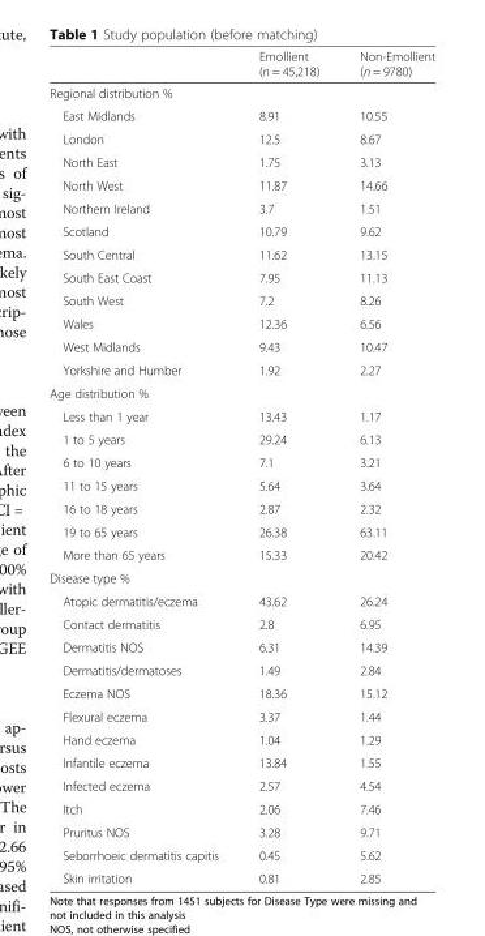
<table><thead><tr><td></td><td>Emollient (n = 45,218)</td><td>Non-Emollient (n = 9780)</td></tr></thead><tbody><tr><td colspan="3">Regional distribution %</td></tr><tr><td>East Midlands</td><td>8.91</td><td>10.55</td></tr><tr><td>London</td><td>12.5</td><td>8.67</td></tr><tr><td>North East</td><td>1.75</td><td>3.13</td></tr><tr><td>North West</td><td>11.87</td><td>14.66</td></tr><tr><td>Northern Ireland</td><td>3.7</td><td>1.51</td></tr><tr><td>Scotland</td><td>10.79</td><td>9.62</td></tr><tr><td>South Central</td><td>11.62</td><td>13.15</td></tr><tr><td>South East Coast</td><td>7.95</td><td>11.13</td></tr><tr><td>South West</td><td>7.2</td><td>8.26</td></tr><tr><td>Wales</td><td>12.36</td><td>6.56</td></tr><tr><td>West Midlands</td><td>9.43</td><td>10.47</td></tr><tr><td>Yorkshire and Humber</td><td>1.92</td><td>2.27</td></tr><tr><td colspan="3">Age distribution %</td></tr><tr><td>Less than 1 year</td><td>13.43</td><td>1.17</td></tr><tr><td>1 to 5 years</td><td>29.24</td><td>6.13</td></tr><tr><td>6 to 10 years</td><td>7.1</td><td>3.21</td></tr><tr><td>11 to 15 years</td><td>5.64</td><td>3.64</td></tr><tr><td>16 to 18 years</td><td>2.87</td><td>2.32</td></tr><tr><td>19 to 65 years</td><td>26.38</td><td>63.11</td></tr><tr><td>More than 65 years</td><td>15.33</td><td>20.42</td></tr><tr><td colspan="3">Disease type %</td></tr><tr><td>Atopic dermatitis/eczema</td><td>43.62</td><td>26.24</td></tr><tr><td>Contact dermatitis</td><td>2.8</td><td>6.95</td></tr><tr><td>Dermatitis NOS</td><td>6.31</td><td>14.39</td></tr><tr><td>Dermatitis/dermatoses</td><td>1.49</td><td>2.84</td></tr><tr><td>Eczema NOS</td><td>18.36</td><td>15.12</td></tr><tr><td>Flexural eczema</td><td>3.37</td><td>1.44</td></tr><tr><td>Hand eczema</td><td>1.04</td><td>1.29</td></tr><tr><td>Infantile eczema</td><td>13.84</td><td>1.55</td></tr><tr><td>Infected eczema</td><td>2.57</td><td>4.54</td></tr><tr><td>Itch</td><td>2.06</td><td>7.46</td></tr><tr><td>Pruritus NOS</td><td>3.28</td><td>9.71</td></tr><tr><td>Seborrhoeic dermatitis capitis</td><td>0.45</td><td>5.62</td></tr><tr><td>Skin irritation</td><td>0.81</td><td>2.85</td></tr></tbody></table>